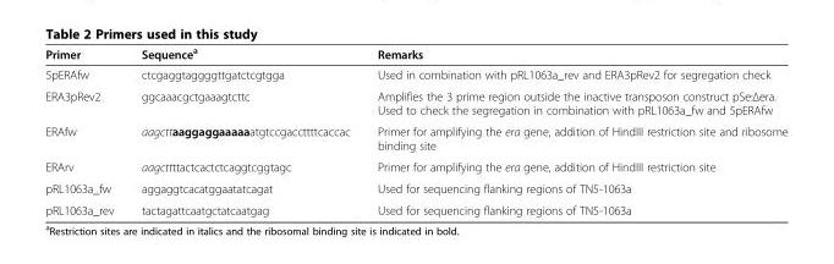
<table><thead><tr><td>Primer</td><td>Sequence<sup>a</sup></td><td>Remarks</td></tr></thead><tbody><tr><td>5pERAfw</td><td>ctcgaggtaggggttgatctcgtgga</td><td>Used in combination with pRL1063a_rev and ERA3pRev2 for segregation check</td></tr><tr><td>ERA3pRev2</td><td>ggcaaacgctgaaagtcttc</td><td>Amplifies the 3 prime region outside the inactive transposon construct pSe:Δera. Used to check the segregation in combination with pRL1063a_fw and 5pERAfw</td></tr><tr><td>ERAfw</td><td>aagcttaaggaggaaaaaatgtccgaccttttcaccac</td><td>Primer for amplifying the era gene, addition of HindIII restriction site and ribosome binding site</td></tr><tr><td>ERArv</td><td>aagcttttactcactctcaggtcggtagc</td><td>Primer for amplifying the era gene, addition of HindIII restriction site</td></tr><tr><td>pRL1063a_fw</td><td>aggaggtcacatggaatatcagat</td><td>Used for sequencing flanking regions of TN5-1063a</td></tr><tr><td>pRL1063a_rev</td><td>tactagattcaatgctatcaatgag</td><td>Used for sequencing flanking regions of TN5-1063a</td></tr></tbody></table>